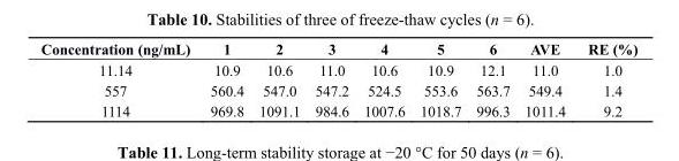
<table><thead><tr><td>Concentration (ng/mL)</td><td>1</td><td>2</td><td>3</td><td>4</td><td>5</td><td>6</td><td>AVE</td><td>RE (%)</td></tr></thead><tbody><tr><td>11.14</td><td>10.9</td><td>10.6</td><td>11.0</td><td>10.6</td><td>10.9</td><td>12.1</td><td>11.0</td><td>1.0</td></tr><tr><td>557</td><td>560.4</td><td>547.0</td><td>547.2</td><td>524.5</td><td>553.6</td><td>563.7</td><td>549.4</td><td>1.4</td></tr><tr><td>1114</td><td>969.8</td><td>1091.1</td><td>984.6</td><td>1007.6</td><td>1018.7</td><td>996.3</td><td>1011.4</td><td>9.2</td></tr></tbody></table>